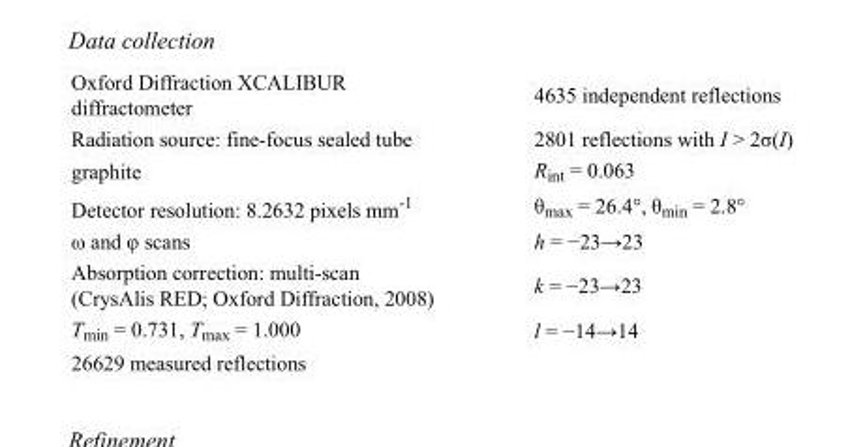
<table><tbody><tr><td>Oxford Diffraction XCALIBUR diffractometer</td><td>4635 independent reflections</td></tr><tr><td>Radiation source: fine-focus sealed tube</td><td>2801 reflections with I &gt; 2σ(I)</td></tr><tr><td>graphite</td><td>R<sub>int</sub> = 0.063</td></tr><tr><td>Detector resolution: 8.2632 pixels mm<sup>-1</sup></td><td>θ<sub>max</sub> = 26.4°, θ<sub>min</sub> = 2.8°</td></tr><tr><td>ω and φ scans</td><td>h = −23→23</td></tr><tr><td>Absorption correction: multi-scan (CrysAlis RED; Oxford Diffraction, 2008)</td><td>k = −23→23</td></tr><tr><td>T<sub>min</sub> = 0.731, T<sub>max</sub> = 1.000</td><td>l = −14→14</td></tr><tr><td>26629 measured reflections</td><td></td></tr></tbody></table>